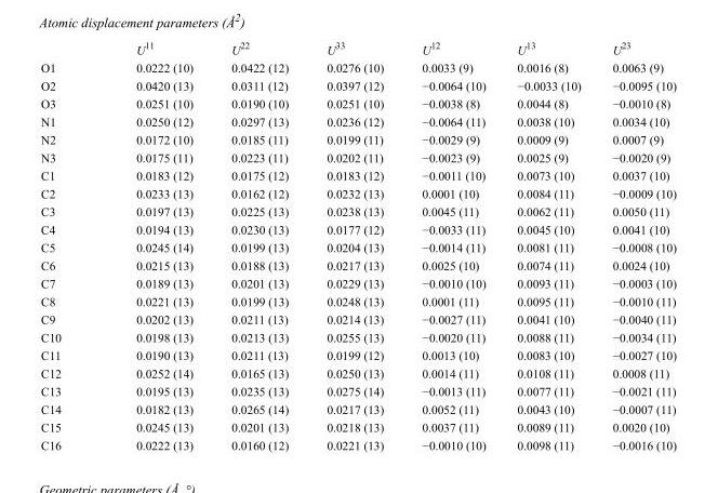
<table><thead><tr><td></td><td>U<sup>11</sup></td><td>U<sup>22</sup></td><td>U<sup>33</sup></td><td>U<sup>12</sup></td><td>U<sup>13</sup></td><td>U<sup>23</sup></td></tr></thead><tbody><tr><td>O1</td><td>0.0222 (10)</td><td>0.0422 (12)</td><td>0.0276 (10)</td><td>0.0033 (9)</td><td>0.0016 (8)</td><td>0.0063 (9)</td></tr><tr><td>O2</td><td>0.0420 (13)</td><td>0.0311 (12)</td><td>0.0397 (12)</td><td>−0.0064 (10)</td><td>−0.0033 (10)</td><td>−0.0095 (10)</td></tr><tr><td>O3</td><td>0.0251 (10)</td><td>0.0190 (10)</td><td>0.0251 (10)</td><td>−0.0038 (8)</td><td>0.0044 (8)</td><td>−0.0010 (8)</td></tr><tr><td>N1</td><td>0.0250 (12)</td><td>0.0297 (13)</td><td>0.0236 (12)</td><td>−0.0064 (11)</td><td>0.0038 (10)</td><td>0.0034 (10)</td></tr><tr><td>N2</td><td>0.0172 (10)</td><td>0.0185 (11)</td><td>0.0199 (11)</td><td>−0.0029 (9)</td><td>0.0009 (9)</td><td>0.0007 (9)</td></tr><tr><td>N3</td><td>0.0175 (11)</td><td>0.0223 (11)</td><td>0.0202 (11)</td><td>−0.0023 (9)</td><td>0.0025 (9)</td><td>−0.0020 (9)</td></tr><tr><td>C1</td><td>0.0183 (12)</td><td>0.0175 (12)</td><td>0.0183 (12)</td><td>−0.0011 (10)</td><td>0.0073 (10)</td><td>0.0037 (10)</td></tr><tr><td>C2</td><td>0.0233 (13)</td><td>0.0162 (12)</td><td>0.0232 (13)</td><td>0.0001 (10)</td><td>0.0084 (11)</td><td>−0.0009 (10)</td></tr><tr><td>C3</td><td>0.0197 (13)</td><td>0.0225 (13)</td><td>0.0238 (13)</td><td>0.0045 (11)</td><td>0.0062 (11)</td><td>0.0050 (11)</td></tr><tr><td>C4</td><td>0.0194 (13)</td><td>0.0230 (13)</td><td>0.0177 (12)</td><td>−0.0033 (11)</td><td>0.0045 (10)</td><td>0.0041 (10)</td></tr><tr><td>C5</td><td>0.0245 (14)</td><td>0.0199 (13)</td><td>0.0204 (13)</td><td>−0.0014 (11)</td><td>0.0081 (11)</td><td>−0.0008 (10)</td></tr><tr><td>C6</td><td>0.0215 (13)</td><td>0.0188 (13)</td><td>0.0217 (13)</td><td>0.0025 (10)</td><td>0.0074 (11)</td><td>0.0024 (10)</td></tr><tr><td>C7</td><td>0.0189 (13)</td><td>0.0201 (13)</td><td>0.0229 (13)</td><td>−0.0010 (10)</td><td>0.0093 (11)</td><td>−0.0003 (10)</td></tr><tr><td>C8</td><td>0.0221 (13)</td><td>0.0199 (13)</td><td>0.0248 (13)</td><td>0.0001 (11)</td><td>0.0095 (11)</td><td>−0.0010 (11)</td></tr><tr><td>C9</td><td>0.0202 (13)</td><td>0.0211 (13)</td><td>0.0214 (13)</td><td>−0.0027 (11)</td><td>0.0041 (10)</td><td>−0.0040 (11)</td></tr><tr><td>C10</td><td>0.0198 (13)</td><td>0.0213 (13)</td><td>0.0255 (13)</td><td>−0.0020 (11)</td><td>0.0088 (11)</td><td>−0.0034 (11)</td></tr><tr><td>C11</td><td>0.0190 (13)</td><td>0.0211 (13)</td><td>0.0199 (12)</td><td>0.0013 (10)</td><td>0.0083 (10)</td><td>−0.0027 (10)</td></tr><tr><td>C12</td><td>0.0252 (14)</td><td>0.0165 (13)</td><td>0.0250 (13)</td><td>0.0014 (11)</td><td>0.0108 (11)</td><td>0.0008 (11)</td></tr><tr><td>C13</td><td>0.0195 (13)</td><td>0.0235 (13)</td><td>0.0275 (14)</td><td>−0.0013 (11)</td><td>0.0077 (11)</td><td>−0.0021 (11)</td></tr><tr><td>C14</td><td>0.0182 (13)</td><td>0.0265 (14)</td><td>0.0217 (13)</td><td>0.0052 (11)</td><td>0.0043 (10)</td><td>−0.0007 (11)</td></tr><tr><td>C15</td><td>0.0245 (13)</td><td>0.0201 (13)</td><td>0.0218 (13)</td><td>0.0037 (11)</td><td>0.0089 (11)</td><td>0.0020 (10)</td></tr><tr><td>C16</td><td>0.0222 (13)</td><td>0.0160 (12)</td><td>0.0221 (13)</td><td>−0.0010 (10)</td><td>0.0098 (11)</td><td>−0.0016 (10)</td></tr></tbody></table>